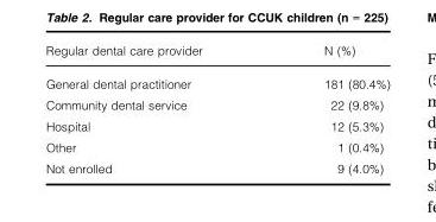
<table><thead><tr><td>Regular dental care provider</td><td>N (%)</td></tr></thead><tbody><tr><td>General dental practitioner</td><td>181 (80.4%)</td></tr><tr><td>Community dental service</td><td>22 (9.8%)</td></tr><tr><td>Hospital</td><td>12 (5.3%)</td></tr><tr><td>Other</td><td>1 (0.4%)</td></tr><tr><td>Not enrolled</td><td>9 (4.0%)</td></tr></tbody></table>